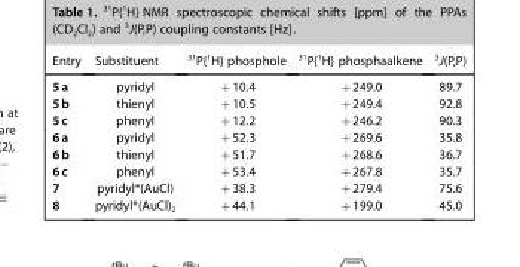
<table><thead><tr><td>Entry</td><td>Substituent</td><td><sup>31</sup>P{<sup>1</sup>H} phosphole</td><td><sup>31</sup>P{<sup>1</sup>H} phosphaalkene</td><td><sup>3</sup>J(P,P)</td></tr></thead><tbody><tr><td>5a</td><td>pyridyl</td><td>+10.4</td><td>+249.0</td><td>89.7</td></tr><tr><td>5b</td><td>thienyl</td><td>+10.5</td><td>+249.4</td><td>92.8</td></tr><tr><td>5c</td><td>phenyl</td><td>+12.2</td><td>+246.2</td><td>90.3</td></tr><tr><td>6a</td><td>pyridyl</td><td>+52.3</td><td>+269.6</td><td>35.8</td></tr><tr><td>6b</td><td>thienyl</td><td>+51.7</td><td>+268.6</td><td>36.7</td></tr><tr><td>6c</td><td>phenyl</td><td>+53.4</td><td>+267.8</td><td>35.7</td></tr><tr><td>7</td><td>pyridyl*(AuCl)</td><td>+38.3</td><td>+279.4</td><td>75.6</td></tr><tr><td>8</td><td>pyridyl*(AuCl)<sub>2</sub></td><td>+44.1</td><td>+199.0</td><td>45.0</td></tr></tbody></table>